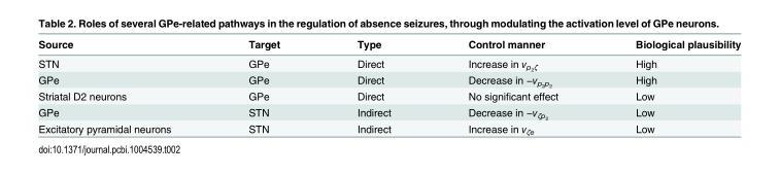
<table><thead><tr><td>Source</td><td>Target</td><td>Type</td><td>Control manner</td><td>Biological plausibility</td></tr></thead><tbody><tr><td>STN</td><td>GPe</td><td>Direct</td><td>Increase in v<sub>p</sub>2<sub>ζ</sub></td><td>High</td></tr><tr><td>GPe</td><td>GPe</td><td>Direct</td><td>Decrease in −vp2p2</td><td>High</td></tr><tr><td>Striatal D2 neurons</td><td>GPe</td><td>Direct</td><td>No significant effect</td><td>Low</td></tr><tr><td>GPe</td><td>STN</td><td>Indirect</td><td>Decrease in −vζp2</td><td>Low</td></tr><tr><td>Excitatory pyramidal neurons</td><td>STN</td><td>Indirect</td><td>Increase in v<sub>ζe</sub></td><td>Low</td></tr></tbody></table>